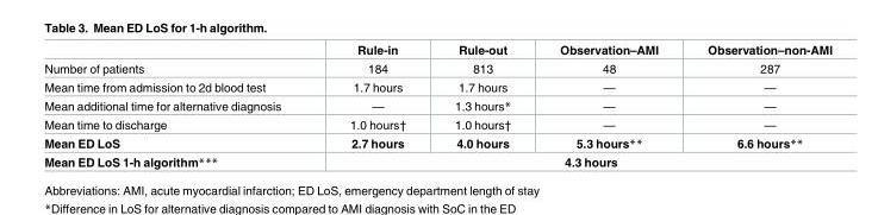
<table><thead><tr><td></td><td>Rule-in</td><td>Rule-out</td><td>Observation–AMI</td><td>Observation–non-AMI</td></tr></thead><tbody><tr><td>Number of patients</td><td>184</td><td>813</td><td>48</td><td>287</td></tr><tr><td>Mean time from admission to 2d blood test</td><td>1.7 hours</td><td>1.7 hours</td><td>—</td><td>—</td></tr><tr><td>Mean additional time for alternative diagnosis</td><td>—</td><td>1.3 hours*</td><td>—</td><td>—</td></tr><tr><td>Mean time to discharge</td><td>1.0 hours†</td><td>1.0 hours†</td><td>—</td><td>—</td></tr><tr><td>Mean ED LoS</td><td>2.7 hours</td><td>4.0 hours</td><td>5.3 hours**</td><td>6.6 hours**</td></tr><tr><td>Mean ED LoS 1-h algorithm***</td><td colspan="4">4.3 hours</td></tr></tbody></table>